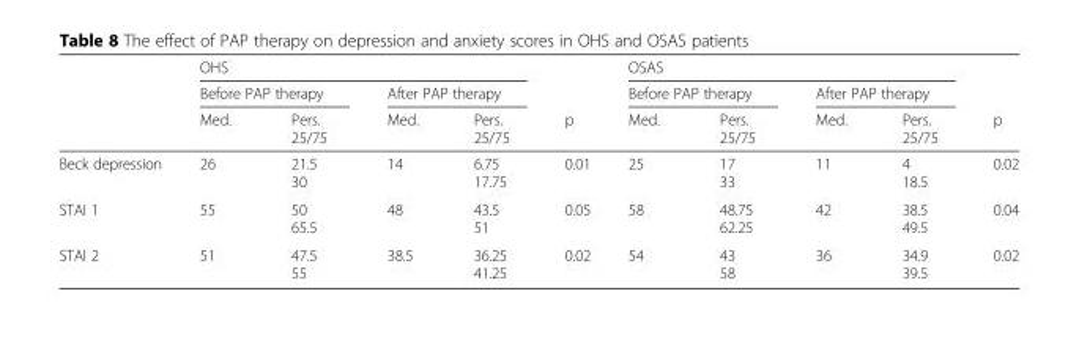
<table><thead><tr><td rowspan="3"></td><td colspan="4">OHS</td><td rowspan="3">p</td><td colspan="4">OSAS</td><td rowspan="3">p</td></tr><tr><td colspan="2">Before PAP therapy</td><td colspan="2">After PAP therapy</td><td colspan="2">Before PAP therapy</td><td colspan="2">After PAP therapy</td></tr><tr><td>Med.</td><td>Pers. 25/75</td><td>Med.</td><td>Pers. 25/75</td><td>Med.</td><td>Pers. 25/75</td><td>Med.</td><td>Pers. 25/75</td></tr></thead><tbody><tr><td>Beck depression</td><td>26</td><td>21.5 30</td><td>14</td><td>6.75 17.75</td><td>0.01</td><td>25</td><td>17 33</td><td>11</td><td>4 18.5</td><td>0.02</td></tr><tr><td>STAI 1</td><td>55</td><td>50 65.5</td><td>48</td><td>43.5 51</td><td>0.05</td><td>58</td><td>48.75 62.25</td><td>42</td><td>38.5 49.5</td><td>0.04</td></tr><tr><td>STAI 2</td><td>51</td><td>47.5 55</td><td>38.5</td><td>36.25 41.25</td><td>0.02</td><td>54</td><td>43 58</td><td>36</td><td>34.9 39.5</td><td>0.02</td></tr></tbody></table>